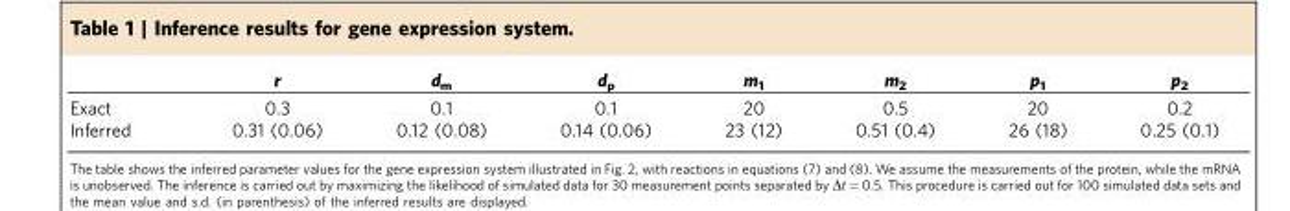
<table><thead><tr><td></td><td>r</td><td>d<sub>m</sub></td><td>d<sub>p</sub></td><td>m<sub>1</sub></td><td>m<sub>2</sub></td><td>p<sub>1</sub></td><td>p<sub>2</sub></td></tr></thead><tbody><tr><td>Exact</td><td>0.3</td><td>0.1</td><td>0.1</td><td>20</td><td>0.5</td><td>20</td><td>0.2</td></tr><tr><td>Inferred</td><td>0.31 (0.06)</td><td>0.12 (0.08)</td><td>0.14 (0.06)</td><td>23 (12)</td><td>0.51 (0.4)</td><td>26 (18)</td><td>0.25 (0.1)</td></tr></tbody></table>